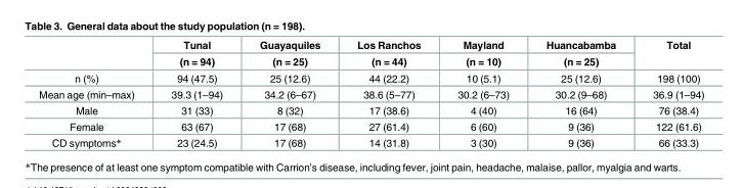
<table><thead><tr><td rowspan="2"></td><td rowspan="2">Tunal (n = 94)</td><td rowspan="2">Guayaquiles (n = 25)</td><td rowspan="2">Los Ranchos (n = 44)</td><td rowspan="2">Mayland (n = 10)</td><td rowspan="2">Huancabamba (n = 25)</td><td rowspan="2">Total</td></tr><tr></tr></thead><tbody><tr><td>n (%)</td><td>94 (47.5)</td><td>25 (12.6)</td><td>44 (22.2)</td><td>10 (5.1)</td><td>25 (12.6)</td><td>198 (100)</td></tr><tr><td>Mean age (min–max)</td><td>39.3 (1–94)</td><td>34.2 (6–67)</td><td>38.6 (5–77)</td><td>30.2 (6–73)</td><td>30.2 (9–68)</td><td>36.9 (1–94)</td></tr><tr><td>Male</td><td>31 (33)</td><td>8 (32)</td><td>17 (38.6)</td><td>4 (40)</td><td>16 (64)</td><td>76 (38.4)</td></tr><tr><td>Female</td><td>63 (67)</td><td>17 (68)</td><td>27 (61.4)</td><td>6 (60)</td><td>9 (36)</td><td>122 (61.6)</td></tr><tr><td>CD symptoms*</td><td>23 (24.5)</td><td>17 (68)</td><td>14 (31.8)</td><td>3 (30)</td><td>9 (36)</td><td>66 (33.3)</td></tr></tbody></table>